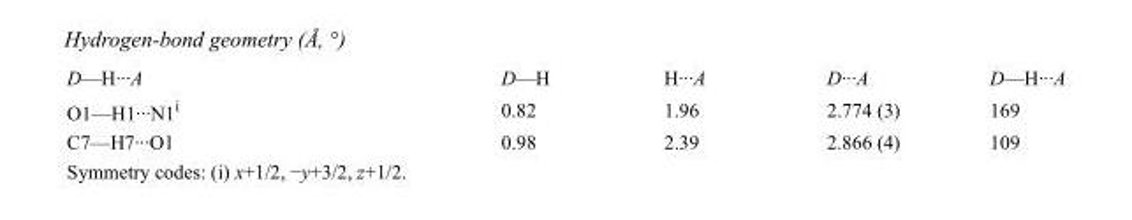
<table><tbody><tr><td>D—H···A</td><td>D—H</td><td>H···A</td><td>D···A</td><td>D—H···A</td></tr><tr><td>O1—H1···N1<sup>i</sup></td><td>0.82</td><td>1.96</td><td>2.774 (3)</td><td>169</td></tr><tr><td>C7—H7···O1</td><td>0.98</td><td>2.39</td><td>2.866 (4)</td><td>109</td></tr></tbody></table>